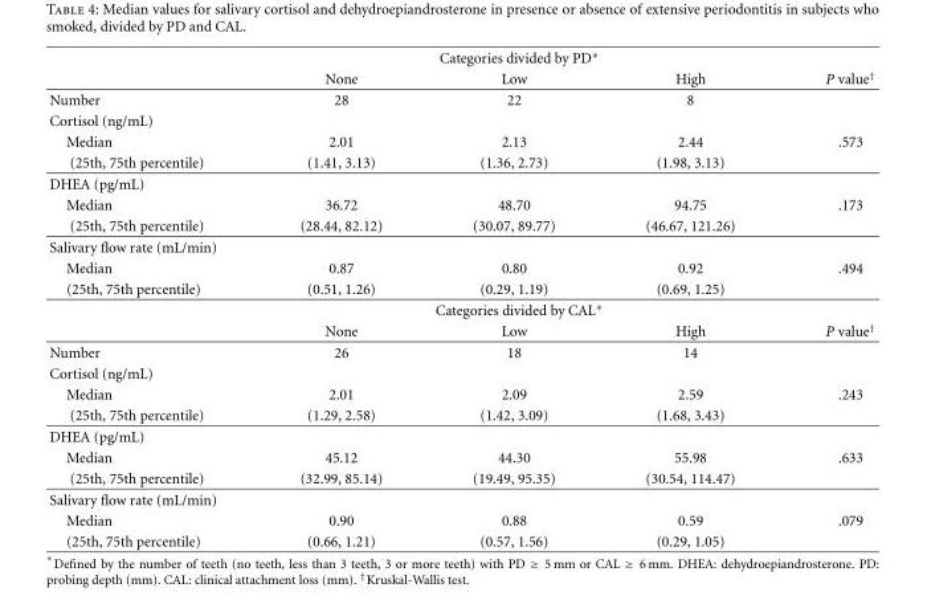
<table><thead><tr><td rowspan="2"></td><td colspan="3">Categories divided by PD∗</td><td rowspan="2">P value<sup>†</sup></td></tr><tr><td>None</td><td>Low</td><td>High</td></tr></thead><tbody><tr><td>Number</td><td>28</td><td>22</td><td>8</td><td></td></tr><tr><td colspan="5">Cortisol (ng/mL)</td></tr><tr><td>Median</td><td>2.01</td><td>2.13</td><td>2.44</td><td>.573</td></tr><tr><td>(25th, 75th percentile)</td><td>(1.41, 3.13)</td><td>(1.36, 2.73)</td><td>(1.98, 3.13)</td><td></td></tr><tr><td colspan="5">DHEA (pg/mL)</td></tr><tr><td>Median</td><td>36.72</td><td>48.70</td><td>94.75</td><td>.173</td></tr><tr><td>(25th, 75th percentile)</td><td>(28.44, 82.12)</td><td>(30.07, 89.77)</td><td>(46.67, 121.26)</td><td></td></tr><tr><td colspan="5">Salivary flow rate (mL/min)</td></tr><tr><td>Median</td><td>0.87</td><td>0.80</td><td>0.92</td><td>.494</td></tr><tr><td rowspan="3">(25th, 75th percentile)</td><td>(0.51, 1.26)</td><td>(0.29, 1.19)</td><td>(0.69, 1.25)</td><td></td></tr><tr><td colspan="3">Categories divided by CAL∗</td><td></td></tr><tr><td>None</td><td>Low</td><td>High</td><td>P value<sup>†</sup></td></tr><tr><td>Number</td><td>26</td><td>18</td><td>14</td><td></td></tr><tr><td colspan="5">Cortisol (ng/mL)</td></tr><tr><td>Median</td><td>2.01</td><td>2.09</td><td>2.59</td><td>.243</td></tr><tr><td>(25th, 75th percentile)</td><td>(1.29, 2.58)</td><td>(1.42, 3.09)</td><td>(1.68, 3.43)</td><td></td></tr><tr><td colspan="5">DHEA (pg/mL)</td></tr><tr><td>Median</td><td>45.12</td><td>44.30</td><td>55.98</td><td>.633</td></tr><tr><td>(25th, 75th percentile)</td><td>(32.99, 85.14)</td><td>(19.49, 95.35)</td><td>(30.54, 114.47)</td><td></td></tr><tr><td colspan="5">Salivary flow rate (mL/min)</td></tr><tr><td>Median</td><td>0.90</td><td>0.88</td><td>0.59</td><td>.079</td></tr><tr><td>(25th, 75th percentile)</td><td>(0.66, 1.21)</td><td>(0.57, 1.56)</td><td>(0.29, 1.05)</td><td></td></tr></tbody></table>